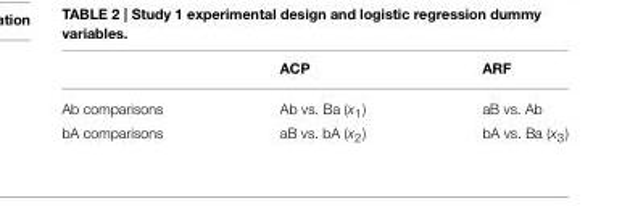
<table><thead><tr><td></td><td>ACP</td><td>ARF</td></tr></thead><tbody><tr><td>Ab comparisons</td><td>Ab vs. Ba (x<sub>1</sub>)</td><td>aB vs. Ab</td></tr><tr><td>bA comparisons</td><td>aB vs. bA (x<sub>2</sub>)</td><td>bA vs. Ba (x<sub>3</sub>)</td></tr></tbody></table>